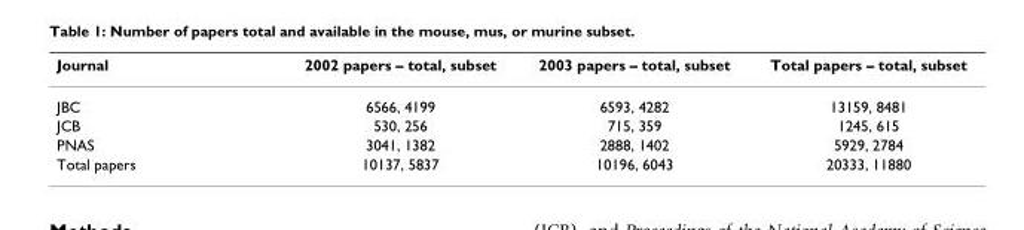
<table><thead><tr><td>Journal</td><td>2002 papers – total, subset</td><td>2003 papers – total, subset</td><td>Total papers – total, subset</td></tr></thead><tbody><tr><td>JBC</td><td>6566, 4199</td><td>6593, 4282</td><td>13159, 8481</td></tr><tr><td>JCB</td><td>530, 256</td><td>715, 359</td><td>1245, 615</td></tr><tr><td>PNAS</td><td>3041, 1382</td><td>2888, 1402</td><td>5929, 2784</td></tr><tr><td>Total papers</td><td>10137, 5837</td><td>10196, 6043</td><td>20333, 11880</td></tr></tbody></table>